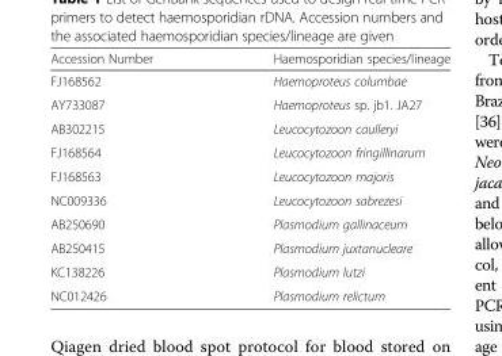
<table><thead><tr><td>Accession Number</td><td>Haemosporidian species/lineage</td></tr></thead><tbody><tr><td>FJ168562</td><td>Haemoproteus columbae</td></tr><tr><td>AY733087</td><td>Haemoproteus sp. jb1. JA27</td></tr><tr><td>AB302215</td><td>Leucocytozoon caulleryi</td></tr><tr><td>FJ168564</td><td>Leucocytozoon fringillinarum</td></tr><tr><td>FJ168563</td><td>Leucocytozoon majoris</td></tr><tr><td>NC009336</td><td>Leucocytozoon sabrezesi</td></tr><tr><td>AB250690</td><td>Plasmodium gallinaceum</td></tr><tr><td>AB250415</td><td>Plasmodium juxtanucleare</td></tr><tr><td>KC138226</td><td>Plasmodium lutzi</td></tr><tr><td>NC012426</td><td>Plasmodium relictum</td></tr></tbody></table>